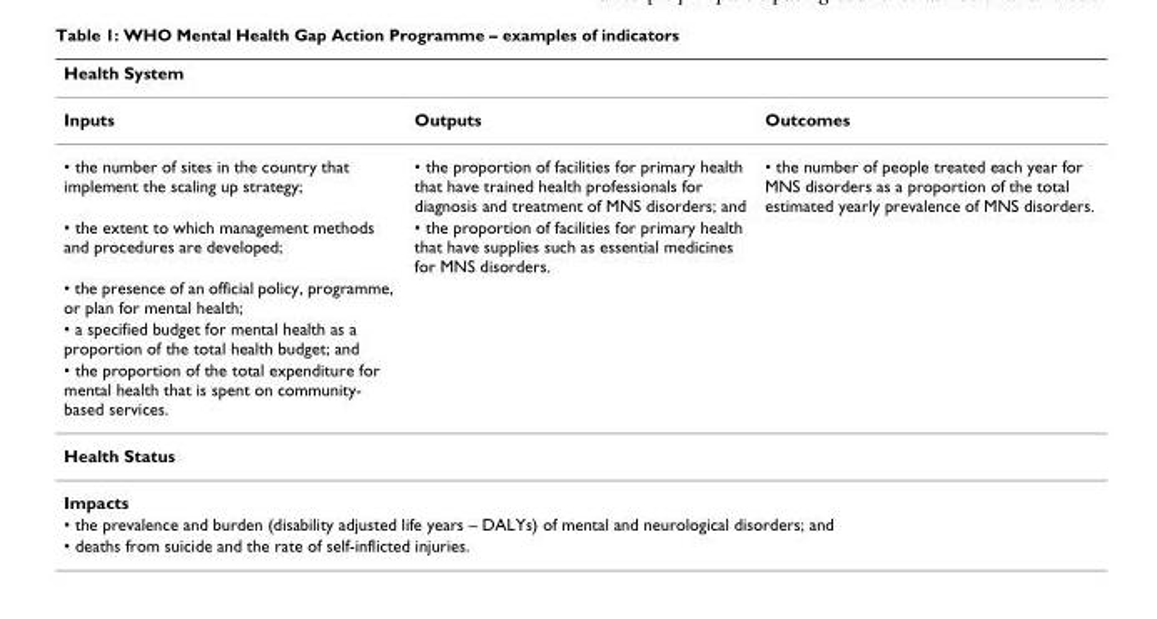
<table><thead><tr><td colspan="3">Health System</td></tr><tr><td>Inputs</td><td>Outputs</td><td>Outcomes</td></tr></thead><tbody><tr><td>• the number of sites in the country that implement the scaling up strategy;</td><td>• the proportion of facilities for primary health that have trained health professionals for diagnosis and treatment of MNS disorders; and</td><td>• the number of people treated each year for MNS disorders as a proportion of the total estimated yearly prevalence of MNS disorders.</td></tr><tr><td>• the extent to which management methods and procedures are developed;</td><td>• the proportion of facilities for primary health that have supplies such as essential medicines for MNS disorders.</td><td></td></tr><tr><td colspan="3">• the presence of an official policy, programme, or plan for mental health;</td></tr><tr><td colspan="3">• a specified budget for mental health as a proportion of the total health budget; and</td></tr><tr><td colspan="3">• the proportion of the total expenditure for mental health that is spent on community- based services.</td></tr><tr><td colspan="3">Health Status</td></tr><tr><td colspan="3">Impacts</td></tr><tr><td colspan="3">• the prevalence and burden (disability adjusted life years – DALYs) of mental and neurological disorders; and</td></tr><tr><td colspan="3">• deaths from suicide and the rate of self-inflicted injuries.</td></tr></tbody></table>